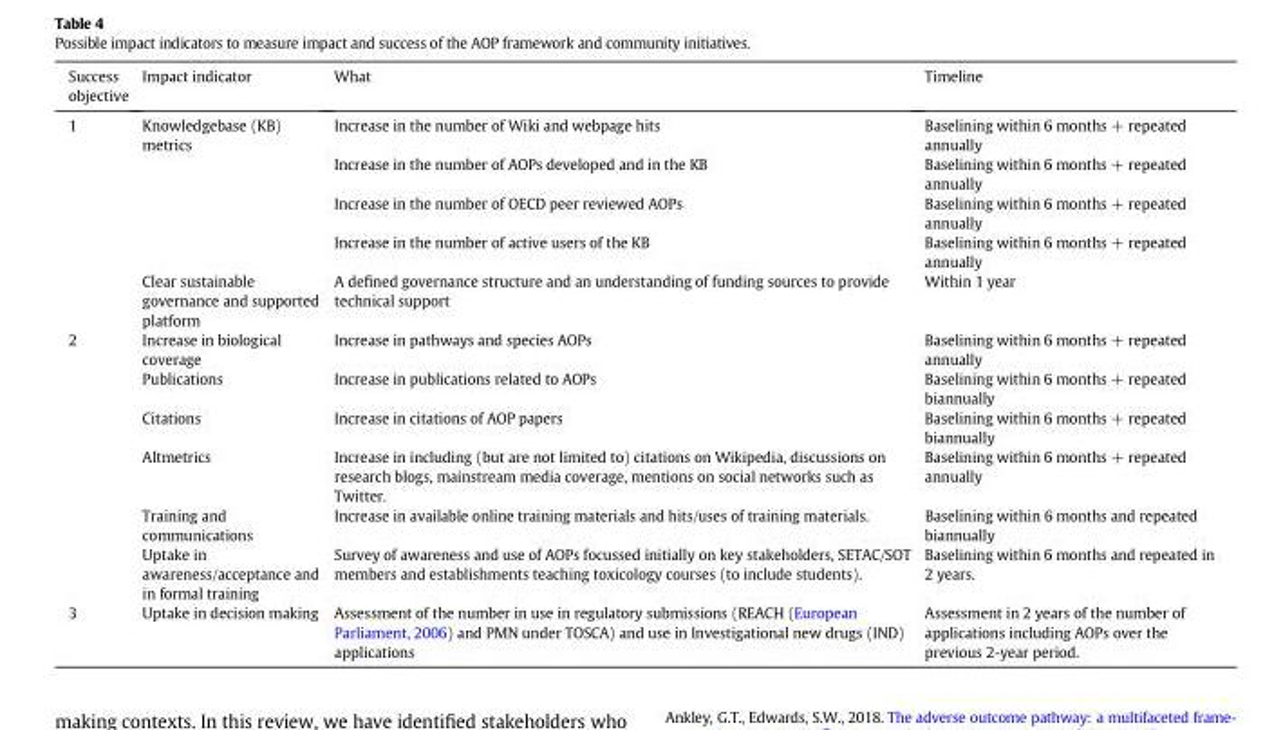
<table><thead><tr><td>Success objective</td><td>Impact indicator</td><td>What</td><td>Timeline</td></tr></thead><tbody><tr><td rowspan="5">1</td><td rowspan="4">Knowledgebase (KB) metrics</td><td>Increase in the number of Wiki and webpage hits</td><td>Baselining within 6 months + repeated annually</td></tr><tr><td>Increase in the number of AOPs developed and in the KB</td><td>Baselining within 6 months + repeated annually</td></tr><tr><td>Increase in the number of OECD peer reviewed AOPs</td><td>Baselining within 6 months + repeated annually</td></tr><tr><td>Increase in the number of active users of the KB</td><td>Baselining within 6 months + repeated annually</td></tr><tr><td>Clear sustainable governance and supported platform</td><td>A defined governance structure and an understanding of funding sources to provide technical support</td><td>Within 1 year</td></tr><tr><td rowspan="6">2</td><td>Increase in biological coverage</td><td>Increase in pathways and species AOPs</td><td>Baselining within 6 months + repeated annually</td></tr><tr><td>Publications</td><td>Increase in publications related to AOPs</td><td>Baselining within 6 months + repeated biannually</td></tr><tr><td>Citations</td><td>Increase in citations of AOP papers</td><td>Baselining within 6 months + repeated biannually</td></tr><tr><td>Altmetrics</td><td>Increase in including (but are not limited to) citations on Wikipedia, discussions on research blogs, mainstream media coverage, mentions on social networks such as Twitter.</td><td>Baselining within 6 months + repeated annually</td></tr><tr><td>Training and communications</td><td>Increase in available online training materials and hits/uses of training materials.</td><td>Baselining within 6 months and repeated biannually</td></tr><tr><td>Uptake in awareness/acceptance and in formal training</td><td>Survey of awareness and use of AOPs focussed initially on key stakeholders, SETAC/SOT members and establishments teaching toxicology courses (to include students).</td><td>Baselining within 6 months and repeated in 2 years.</td></tr><tr><td>3</td><td>Uptake in decision making</td><td>Assessment of the number in use in regulatory submissions (REACH (European Parliament, 2006) and PMN under TOSCA) and use in Investigational new drugs (IND) applications</td><td>Assessment in 2 years of the number of applications including AOPs over the previous 2-year period.</td></tr></tbody></table>